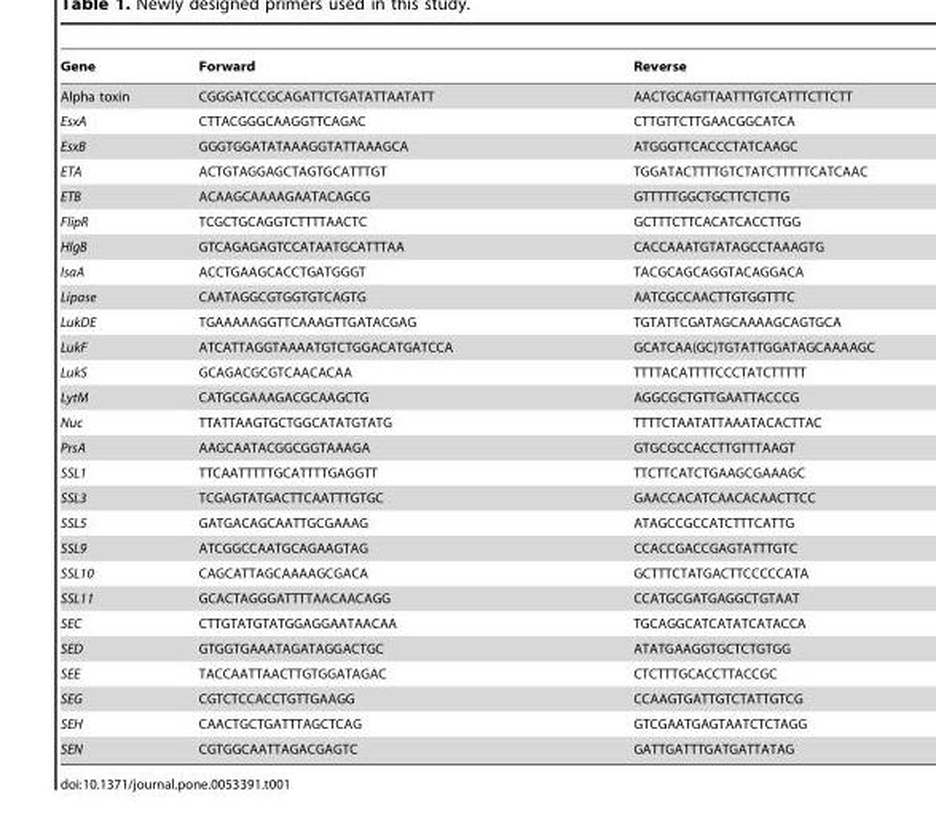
<table><thead><tr><td>Gene</td><td>Forward</td><td>Reverse</td></tr></thead><tbody><tr><td>Alpha toxin</td><td>CGGGATCCGCAGATTCTGATATTAATATT</td><td>AACTGCAGTTAATTTGTCATTTCTTCTT</td></tr><tr><td>EsxA</td><td>CTTACGGGCAAGGTTCAGAC</td><td>CTTGTTCTTGAACGGCATCA</td></tr><tr><td>EsxB</td><td>GGGTGGATATAAAGGTATTAAAGCA</td><td>ATGGGTTCACCCTATCAAGC</td></tr><tr><td>ETA</td><td>ACTGTAGGAGCTAGTGCATTTGT</td><td>TGGATACTTTTGTCTATCTTTTTCATCAAC</td></tr><tr><td>ETB</td><td>ACAAGCAAAAGAATACAGCG</td><td>GTTTTTGGCTGCTTCTCTTG</td></tr><tr><td>FlipR</td><td>TCGCTGCAGGTCTTTTAACTC</td><td>GCTTTCTTCACATCACCTTGG</td></tr><tr><td>HlgB</td><td>GTCAGAGAGTCCATAATGCATTTAA</td><td>CACCAAATGTATAGCCTAAAGTG</td></tr><tr><td>IsaA</td><td>ACCTGAAGCACCTGATGGGT</td><td>TACGCAGCAGGTACAGGACA</td></tr><tr><td>Lipase</td><td>CAATAGGCGTGGTGTCAGTG</td><td>AATCGCCAACTTGTGGTTTC</td></tr><tr><td>LukDE</td><td>TGAAAAAGGTTCAAAGTTGATACGAG</td><td>TGTATTCGATAGCAAAAGCAGTGCA</td></tr><tr><td>LukF</td><td>ATCATTAGGTAAAATGTCTGGACATGATCCA</td><td>GCATCAA(GC)TGTATTGGATAGCAAAAGC</td></tr><tr><td>LukS</td><td>GCAGACGCGTCAACACAA</td><td>TTTTACATTTTCCCTATCTTTTT</td></tr><tr><td>LytM</td><td>CATGCGAAAGACGCAAGCTG</td><td>AGGCGCTGTTGAATTACCCG</td></tr><tr><td>Nuc</td><td>TTATTAAGTGCTGGCATATGTATG</td><td>TTTTCTAATATTAAATACACTTAC</td></tr><tr><td>PrsA</td><td>AAGCAATACGGCGGTAAAGA</td><td>GTGCGCCACCTTGTTTAAGT</td></tr><tr><td>SSL1</td><td>TTCAATTTTTGCATTTTGAGGTT</td><td>TTCTTCATCTGAAGCGAAAGC</td></tr><tr><td>SSL3</td><td>TCGAGTATGACTTCAATTTGTGC</td><td>GAACCACATCAACACAACTTCC</td></tr><tr><td>SSL5</td><td>GATGACAGCAATTGCGAAAG</td><td>ATAGCCGCCATCTTTCATTG</td></tr><tr><td>SSL9</td><td>ATCGGCCAATGCAGAAGTAG</td><td>CCACCGACCGAGTATTTGTC</td></tr><tr><td>SSL10</td><td>CAGCATTAGCAAAAGCGACA</td><td>GCTTTCTATGACTTCCCCCATA</td></tr><tr><td>SSL11</td><td>GCACTAGGGATTTTAACAACAGG</td><td>CCATGCGATGAGGCTGTAAT</td></tr><tr><td>SEC</td><td>CTTGTATGTATGGAGGAATAACAA</td><td>TGCAGGCATCATATCATACCA</td></tr><tr><td>SED</td><td>GTGGTGAAATAGATAGGACTGC</td><td>ATATGAAGGTGCTCTGTGG</td></tr><tr><td>SEE</td><td>TACCAATTAACTTGTGGATAGAC</td><td>CTCTTTGCACCTTACCGC</td></tr><tr><td>SEG</td><td>CGTCTCCACCTGTTGAAGG</td><td>CCAAGTGATTGTCTATTGTCG</td></tr><tr><td>SEH</td><td>CAACTGCTGATTTAGCTCAG</td><td>GTCGAATGAGTAATCTCTAGG</td></tr><tr><td>SEN</td><td>CGTGGCAATTAGACGAGTC</td><td>GATTGATTTGATGATTATAG</td></tr></tbody></table>